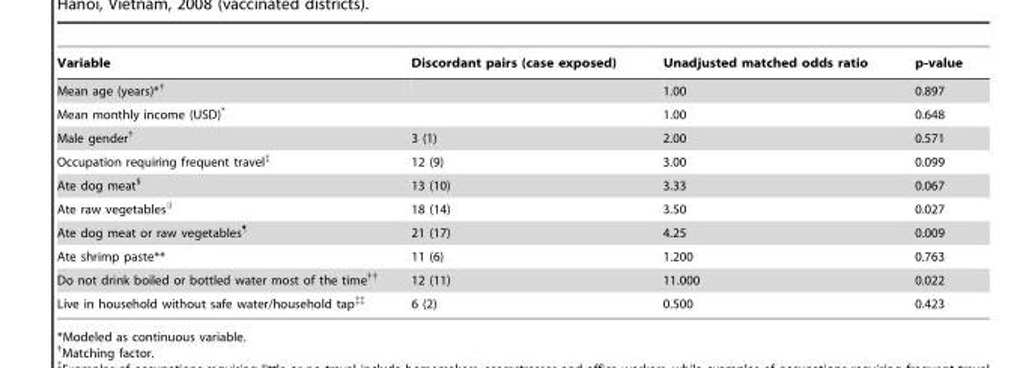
<table><thead><tr><td>Variable</td><td>Discordant pairs (case exposed)</td><td>Unadjusted matched odds ratio</td><td>p-value</td></tr></thead><tbody><tr><td>Mean age (years)*†</td><td></td><td>1.00</td><td>0.897</td></tr><tr><td>Mean monthly income (USD)*</td><td></td><td>1.00</td><td>0.648</td></tr><tr><td>Male gender†</td><td>3 (1)</td><td>2.00</td><td>0.571</td></tr><tr><td>Occupation requiring frequent travel‡</td><td>12 (9)</td><td>3.00</td><td>0.099</td></tr><tr><td>Ate dog meat§</td><td>13 (10)</td><td>3.33</td><td>0.067</td></tr><tr><td>Ate raw vegetables∥</td><td>18 (14)</td><td>3.50</td><td>0.027</td></tr><tr><td>Ate dog meat or raw vegetables¶</td><td>21 (17)</td><td>4.25</td><td>0.009</td></tr><tr><td>Ate shrimp paste**</td><td>11 (6)</td><td>1.200</td><td>0.763</td></tr><tr><td>Do not drink boiled or bottled water most of the time††</td><td>12 (11)</td><td>11.000</td><td>0.022</td></tr><tr><td>Live in household without safe water/household tap‡‡</td><td>6 (2)</td><td>0.500</td><td>0.423</td></tr></tbody></table>